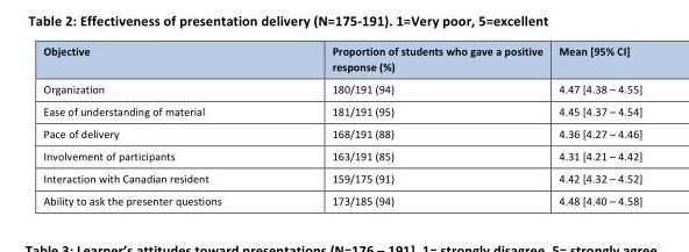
<table><thead><tr><td>Objective</td><td>Proportion of students who gave a positive response (%)</td><td>Mean [95% CI]</td></tr></thead><tbody><tr><td>Organization</td><td>180/191 (94)</td><td>4.47 [4.38 – 4.55]</td></tr><tr><td>Ease of understanding of material</td><td>181/191 (95)</td><td>4.45 [4.37 – 4.54]</td></tr><tr><td>Pace of delivery</td><td>168/191 (88)</td><td>4.36 [4.27 – 4.46]</td></tr><tr><td>Involvement of participants</td><td>163/191 (85)</td><td>4.31 [4.21 – 4.42]</td></tr><tr><td>Interaction with Canadian resident</td><td>159/175 (91)</td><td>4.42 [4.32 – 4.52]</td></tr><tr><td>Ability to ask the presenter questions</td><td>173/185 (94)</td><td>4.48 [4.40 – 4.58]</td></tr></tbody></table>